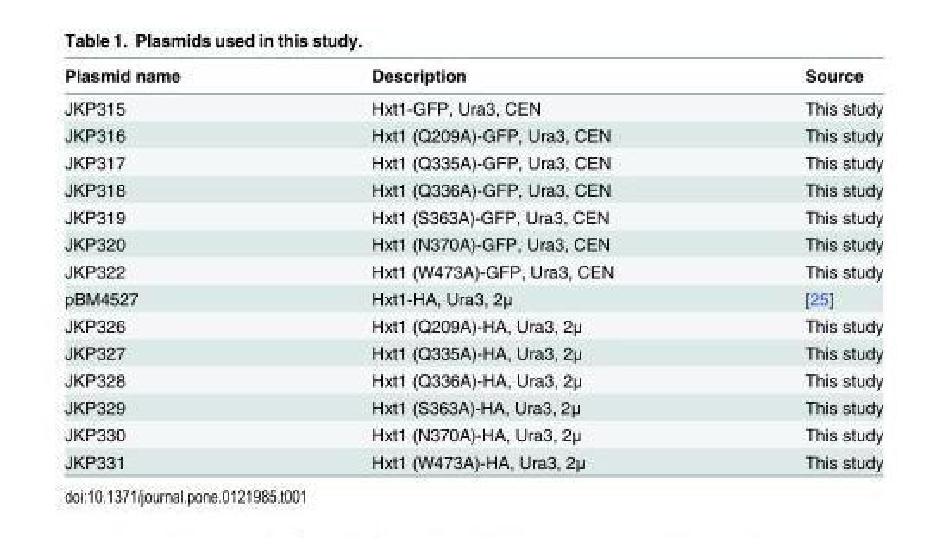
<table><thead><tr><td>Plasmid name</td><td>Description</td><td>Source</td></tr></thead><tbody><tr><td>JKP315</td><td>Hxt1-GFP, Ura3, CEN</td><td>This study</td></tr><tr><td>JKP316</td><td>Hxt1 (Q209A)-GFP, Ura3, CEN</td><td>This study</td></tr><tr><td>JKP317</td><td>Hxt1 (Q335A)-GFP, Ura3, CEN</td><td>This study</td></tr><tr><td>JKP318</td><td>Hxt1 (Q336A)-GFP, Ura3, CEN</td><td>This study</td></tr><tr><td>JKP319</td><td>Hxt1 (S363A)-GFP, Ura3, CEN</td><td>This study</td></tr><tr><td>JKP320</td><td>Hxt1 (N370A)-GFP, Ura3, CEN</td><td>This study</td></tr><tr><td>JKP322</td><td>Hxt1 (W473A)-GFP, Ura3, CEN</td><td>This study</td></tr><tr><td>pBM4527</td><td>Hxt1-HA, Ura3, 2μ</td><td>[25]</td></tr><tr><td>JKP326</td><td>Hxt1 (Q209A)-HA, Ura3, 2μ</td><td>This study</td></tr><tr><td>JKP327</td><td>Hxt1 (Q335A)-HA, Ura3, 2μ</td><td>This study</td></tr><tr><td>JKP328</td><td>Hxt1 (Q336A)-HA, Ura3, 2μ</td><td>This study</td></tr><tr><td>JKP329</td><td>Hxt1 (S363A)-HA, Ura3, 2μ</td><td>This study</td></tr><tr><td>JKP330</td><td>Hxt1 (N370A)-HA, Ura3, 2μ</td><td>This study</td></tr><tr><td>JKP331</td><td>Hxt1 (W473A)-HA, Ura3, 2μ</td><td>This study</td></tr></tbody></table>